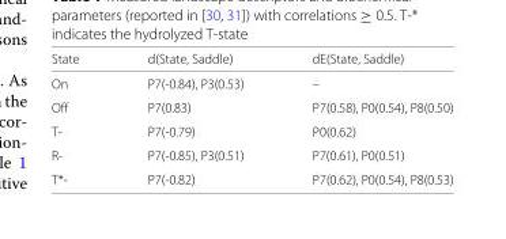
<table><thead><tr><td>State</td><td>d(State, Saddle)</td><td>dE(State, Saddle)</td></tr></thead><tbody><tr><td>On</td><td>P7(-0.84), P3(0.53)</td><td>–</td></tr><tr><td>Off</td><td>P7(0.83)</td><td>P7(0.58), P0(0.54), P8(0.50)</td></tr><tr><td>T-</td><td>P7(-0.79)</td><td>P0(0.62)</td></tr><tr><td>R-</td><td>P7(-0.85), P3(0.51)</td><td>P7(0.61), P0(0.51)</td></tr><tr><td>T*-</td><td>P7(-0.82)</td><td>P7(0.62), P0(0.54), P8(0.53)</td></tr></tbody></table>